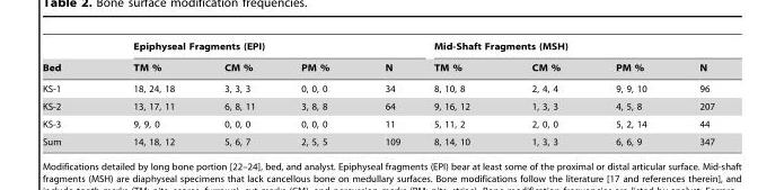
<table><thead><tr><td rowspan="2">Bed</td><td colspan="4">Epiphyseal Fragments (EPI)</td><td colspan="4">Mid-Shaft Fragments (MSH)</td></tr><tr><td>TM %</td><td>CM %</td><td>PM %</td><td>N</td><td>TM %</td><td>CM %</td><td>PM %</td><td>N</td></tr></thead><tbody><tr><td>KS-1</td><td>18, 24, 18</td><td>3, 3, 3</td><td>0, 0, 0</td><td>34</td><td>8, 10, 8</td><td>2, 4, 4</td><td>9, 9, 10</td><td>96</td></tr><tr><td>KS-2</td><td>13, 17, 11</td><td>6, 8, 11</td><td>3, 8, 8</td><td>64</td><td>9, 16, 12</td><td>1, 3, 3</td><td>4, 5, 8</td><td>207</td></tr><tr><td>KS-3</td><td>9, 9, 0</td><td>0, 0, 0</td><td>0, 0, 0</td><td>11</td><td>5, 11, 2</td><td>2, 0, 0</td><td>5, 2, 14</td><td>44</td></tr><tr><td>Sum</td><td>14, 18, 12</td><td>5, 6, 7</td><td>2, 5, 5</td><td>109</td><td>8, 14, 10</td><td>1, 3, 3</td><td>6, 6, 9</td><td>347</td></tr></tbody></table>